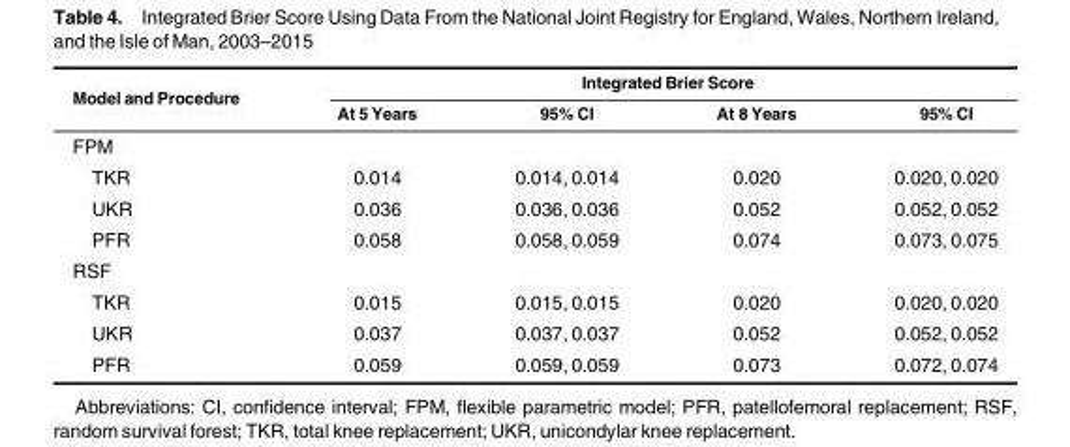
<table><thead><tr><td rowspan="2">Model and Procedure</td><td colspan="4">Integrated Brier Score</td></tr><tr><td>At 5 Years</td><td>95% CI</td><td>At 8 Years</td><td>95% CI</td></tr></thead><tbody><tr><td colspan="5">FPM</td></tr><tr><td>TKR</td><td>0.014</td><td>0.014, 0.014</td><td>0.020</td><td>0.020, 0.020</td></tr><tr><td>UKR</td><td>0.036</td><td>0.036, 0.036</td><td>0.052</td><td>0.052, 0.052</td></tr><tr><td>PFR</td><td>0.058</td><td>0.058, 0.059</td><td>0.074</td><td>0.073, 0.075</td></tr><tr><td colspan="5">RSF</td></tr><tr><td>TKR</td><td>0.015</td><td>0.015, 0.015</td><td>0.020</td><td>0.020, 0.020</td></tr><tr><td>UKR</td><td>0.037</td><td>0.037, 0.037</td><td>0.052</td><td>0.052, 0.052</td></tr><tr><td>PFR</td><td>0.059</td><td>0.059, 0.059</td><td>0.073</td><td>0.072, 0.074</td></tr></tbody></table>